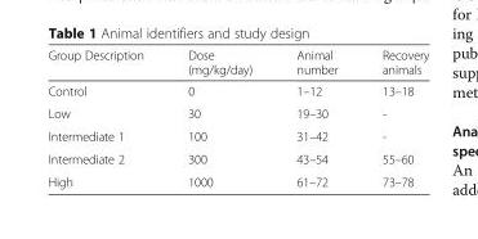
<table><thead><tr><td>Group Description</td><td>Dose (mg/kg/day)</td><td>Animal number</td><td>Recovery animals</td></tr></thead><tbody><tr><td>Control</td><td>0</td><td>1–12</td><td>13–18</td></tr><tr><td>Low</td><td>30</td><td>19–30</td><td>-</td></tr><tr><td>Intermediate 1</td><td>100</td><td>31–42</td><td>-</td></tr><tr><td>Intermediate 2</td><td>300</td><td>43–54</td><td>55–60</td></tr><tr><td>High</td><td>1000</td><td>61–72</td><td>73–78</td></tr></tbody></table>